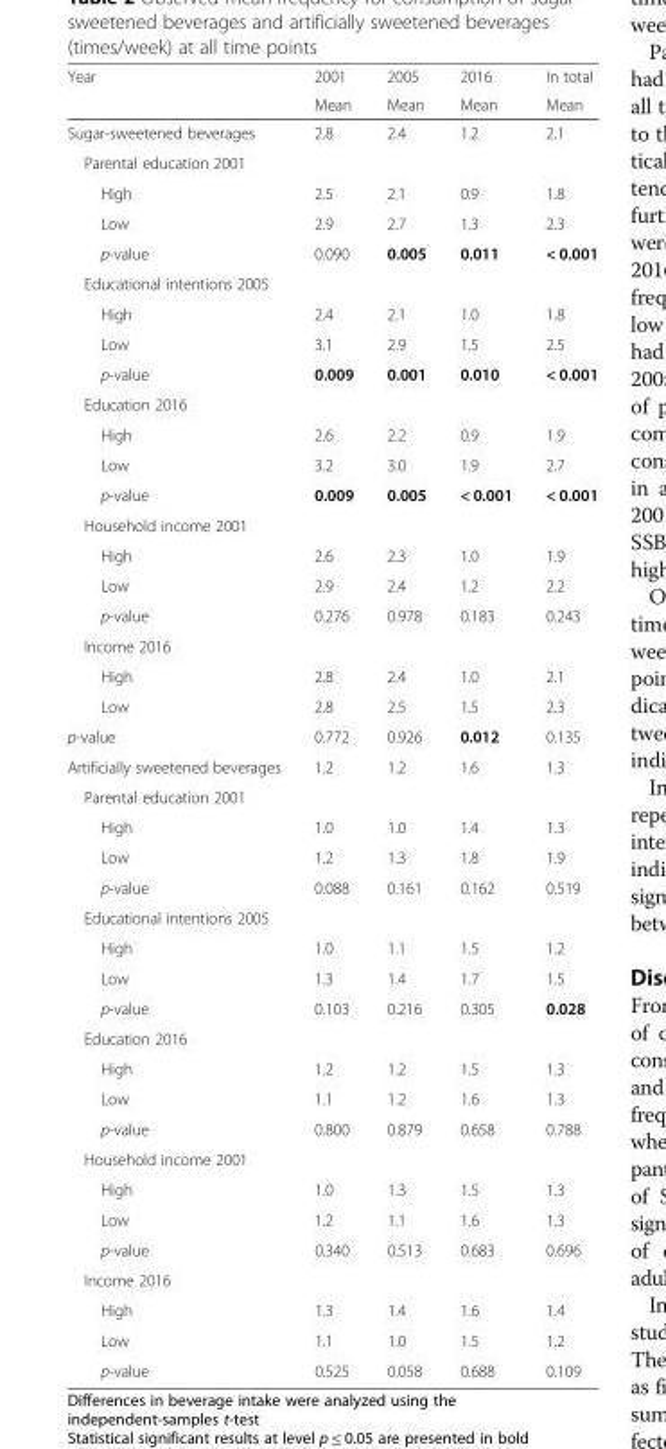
<table><thead><tr><td rowspan="2">Year</td><td rowspan="2">2001 Mean</td><td rowspan="2">2005 Mean</td><td rowspan="2">2016 Mean</td><td rowspan="2">In total Mean</td></tr><tr></tr></thead><tbody><tr><td>Sugar-sweetened beverages</td><td>2.8</td><td>2.4</td><td>1.2</td><td>2.1</td></tr><tr><td colspan="5">Parental education 2001</td></tr><tr><td>High</td><td>2.5</td><td>2.1</td><td>0.9</td><td>1.8</td></tr><tr><td>Low</td><td>2.9</td><td>2.7</td><td>1.3</td><td>2.3</td></tr><tr><td>p-value</td><td>0.090</td><td>0.005</td><td>0.011</td><td>&lt; 0.001</td></tr><tr><td colspan="5">Educational intentions 2005</td></tr><tr><td>High</td><td>2.4</td><td>2.1</td><td>1.0</td><td>1.8</td></tr><tr><td>Low</td><td>3.1</td><td>2.9</td><td>1.5</td><td>2.5</td></tr><tr><td>p-value</td><td>0.009</td><td>0.001</td><td>0.010</td><td>&lt; 0.001</td></tr><tr><td colspan="5">Education 2016</td></tr><tr><td>High</td><td>2.6</td><td>2.2</td><td>0.9</td><td>1.9</td></tr><tr><td>Low</td><td>3.2</td><td>3.0</td><td>1.9</td><td>2.7</td></tr><tr><td>p-value</td><td>0.009</td><td>0.005</td><td>&lt; 0.001</td><td>&lt; 0.001</td></tr><tr><td colspan="5">Household income 2001</td></tr><tr><td>High</td><td>2.6</td><td>2.3</td><td>1.0</td><td>1.9</td></tr><tr><td>Low</td><td>2.9</td><td>2.4</td><td>1.2</td><td>2.2</td></tr><tr><td>p-value</td><td>0.276</td><td>0.978</td><td>0.183</td><td>0.243</td></tr><tr><td colspan="5">Income 2016</td></tr><tr><td>High</td><td>2.8</td><td>2.4</td><td>1.0</td><td>2.1</td></tr><tr><td>Low</td><td>2.8</td><td>2.5</td><td>1.5</td><td>2.3</td></tr><tr><td>p-value</td><td>0.772</td><td>0.926</td><td>0.012</td><td>0.135</td></tr><tr><td>Artificially sweetened beverages</td><td>1.2</td><td>1.2</td><td>1.6</td><td>1.3</td></tr><tr><td colspan="5">Parental education 2001</td></tr><tr><td>High</td><td>1.0</td><td>1.0</td><td>1.4</td><td>1.3</td></tr><tr><td>Low</td><td>1.2</td><td>1.3</td><td>1.8</td><td>1.9</td></tr><tr><td>p-value</td><td>0.088</td><td>0.161</td><td>0.162</td><td>0.519</td></tr><tr><td colspan="5">Educational intentions 2005</td></tr><tr><td>High</td><td>1.0</td><td>1.1</td><td>1.5</td><td>1.2</td></tr><tr><td>Low</td><td>1.3</td><td>1.4</td><td>1.7</td><td>1.5</td></tr><tr><td>p-value</td><td>0.103</td><td>0.216</td><td>0.305</td><td>0.028</td></tr><tr><td colspan="5">Education 2016</td></tr><tr><td>High</td><td>1.2</td><td>1.2</td><td>1.5</td><td>1.3</td></tr><tr><td>Low</td><td>1.1</td><td>1.2</td><td>1.6</td><td>1.3</td></tr><tr><td>p-value</td><td>0.800</td><td>0.879</td><td>0.658</td><td>0.788</td></tr><tr><td colspan="5">Household income 2001</td></tr><tr><td>High</td><td>1.0</td><td>1.3</td><td>1.5</td><td>1.3</td></tr><tr><td>Low</td><td>1.2</td><td>1.1</td><td>1.6</td><td>1.3</td></tr><tr><td>p-value</td><td>0.340</td><td>0.513</td><td>0.683</td><td>0.696</td></tr><tr><td colspan="5">Income 2016</td></tr><tr><td>High</td><td>1.3</td><td>1.4</td><td>1.6</td><td>1.4</td></tr><tr><td>Low</td><td>1.1</td><td>1.0</td><td>1.5</td><td>1.2</td></tr><tr><td>p-value</td><td>0.525</td><td>0.058</td><td>0.688</td><td>0.109</td></tr></tbody></table>